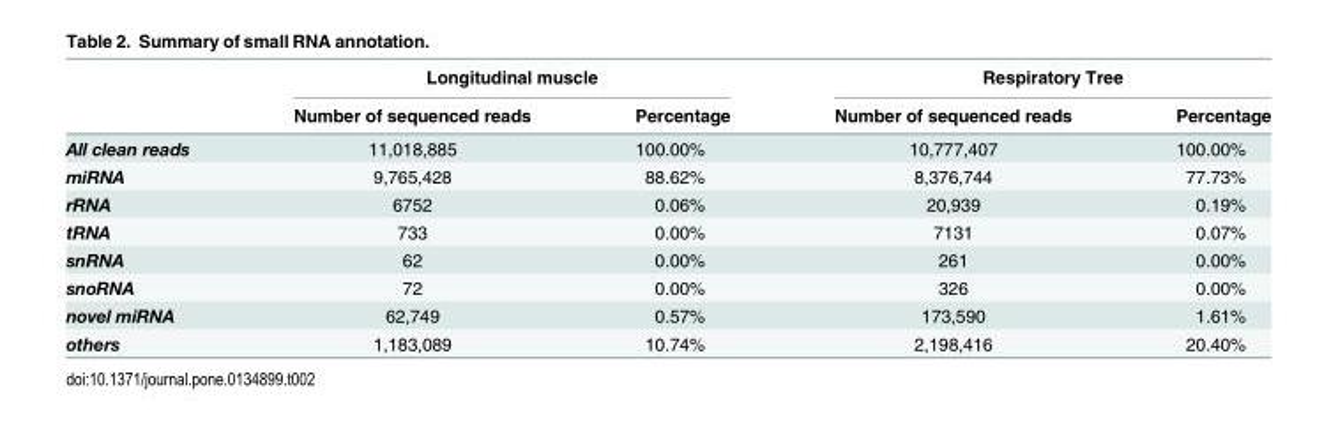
<table><thead><tr><td rowspan="2"></td><td colspan="2">Longitudinal muscle</td><td colspan="2">Respiratory Tree</td></tr><tr><td>Number of sequenced reads</td><td>Percentage</td><td>Number of sequenced reads</td><td>Percentage</td></tr></thead><tbody><tr><td>All clean reads</td><td>11,018,885</td><td>100.00%</td><td>10,777,407</td><td>100.00%</td></tr><tr><td>miRNA</td><td>9,765,428</td><td>88.62%</td><td>8,376,744</td><td>77.73%</td></tr><tr><td>rRNA</td><td>6752</td><td>0.06%</td><td>20,939</td><td>0.19%</td></tr><tr><td>tRNA</td><td>733</td><td>0.00%</td><td>7131</td><td>0.07%</td></tr><tr><td>snRNA</td><td>62</td><td>0.00%</td><td>261</td><td>0.00%</td></tr><tr><td>snoRNA</td><td>72</td><td>0.00%</td><td>326</td><td>0.00%</td></tr><tr><td>novel miRNA</td><td>62,749</td><td>0.57%</td><td>173,590</td><td>1.61%</td></tr><tr><td>others</td><td>1,183,089</td><td>10.74%</td><td>2,198,416</td><td>20.40%</td></tr></tbody></table>